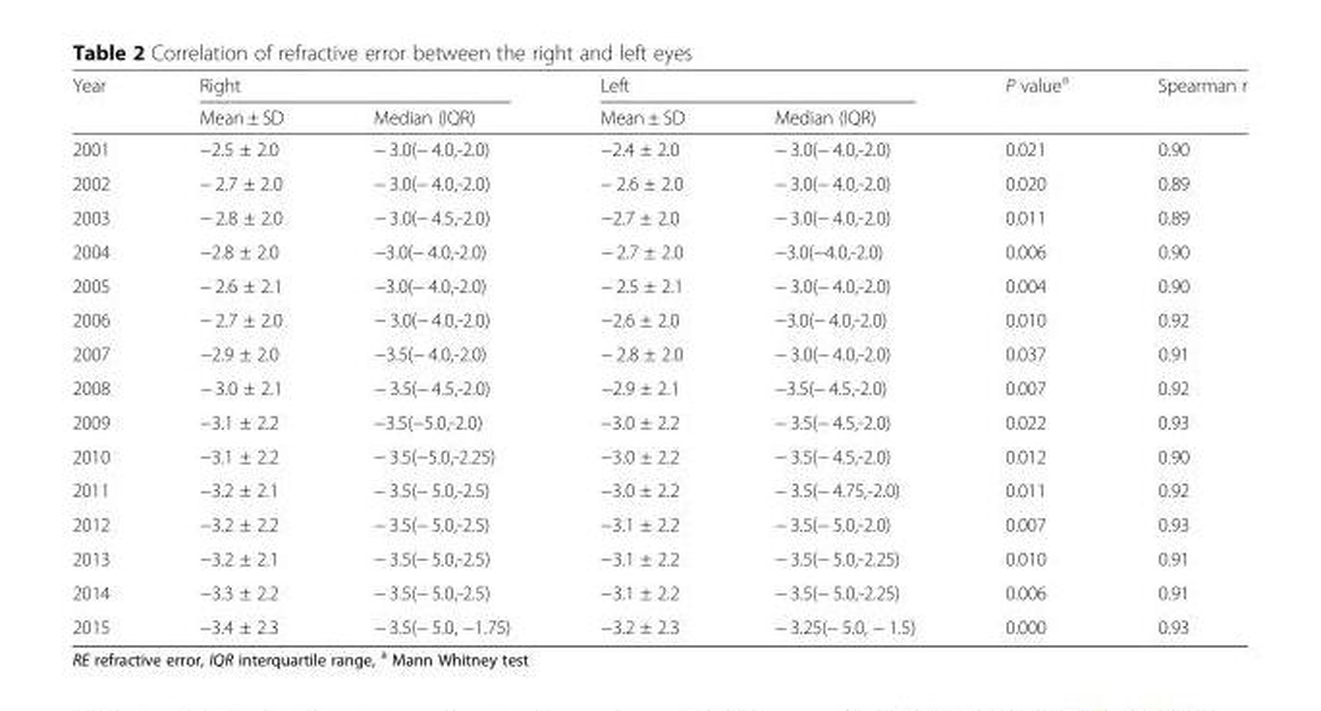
<table><thead><tr><td rowspan="2">Year</td><td colspan="2">Right</td><td colspan="2">Left</td><td rowspan="2">P value<sup>a</sup></td><td rowspan="2">Spearman r</td></tr><tr><td>Mean ± SD</td><td>Median (IQR)</td><td>Mean ± SD</td><td>Median (IQR)</td></tr></thead><tbody><tr><td>2001</td><td>−2.5 ± 2.0</td><td>− 3.0(− 4.0,-2.0)</td><td>−2.4 ± 2.0</td><td>− 3.0(− 4.0,-2.0)</td><td>0.021</td><td>0.90</td></tr><tr><td>2002</td><td>− 2.7 ± 2.0</td><td>− 3.0(− 4.0,-2.0)</td><td>− 2.6 ± 2.0</td><td>− 3.0(− 4.0,-2.0)</td><td>0.020</td><td>0.89</td></tr><tr><td>2003</td><td>− 2.8 ± 2.0</td><td>− 3.0(− 4.5,-2.0)</td><td>−2.7 ± 2.0</td><td>− 3.0(− 4.0,-2.0)</td><td>0.011</td><td>0.89</td></tr><tr><td>2004</td><td>−2.8 ± 2.0</td><td>−3.0(− 4.0,-2.0)</td><td>− 2.7 ± 2.0</td><td>−3.0(−4.0,-2.0)</td><td>0.006</td><td>0.90</td></tr><tr><td>2005</td><td>− 2.6 ± 2.1</td><td>−3.0(− 4.0,-2.0)</td><td>− 2.5 ± 2.1</td><td>− 3.0(− 4.0,-2.0)</td><td>0.004</td><td>0.90</td></tr><tr><td>2006</td><td>− 2.7 ± 2.0</td><td>− 3.0(− 4.0,-2.0)</td><td>−2.6 ± 2.0</td><td>−3.0(− 4.0,-2.0)</td><td>0.010</td><td>0.92</td></tr><tr><td>2007</td><td>−2.9 ± 2.0</td><td>−3.5(− 4.0,-2.0)</td><td>− 2.8 ± 2.0</td><td>− 3.0(− 4.0,-2.0)</td><td>0.037</td><td>0.91</td></tr><tr><td>2008</td><td>− 3.0 ± 2.1</td><td>− 3.5(− 4.5,-2.0)</td><td>−2.9 ± 2.1</td><td>−3.5(− 4.5,-2.0)</td><td>0.007</td><td>0.92</td></tr><tr><td>2009</td><td>−3.1 ± 2.2</td><td>−3.5(−5.0,-2.0)</td><td>−3.0 ± 2.2</td><td>− 3.5(− 4.5,-2.0)</td><td>0.022</td><td>0.93</td></tr><tr><td>2010</td><td>−3.1 ± 2.2</td><td>− 3.5(−5.0,-2.25)</td><td>−3.0 ± 2.2</td><td>− 3.5(− 4.5,-2.0)</td><td>0.012</td><td>0.90</td></tr><tr><td>2011</td><td>−3.2 ± 2.1</td><td>− 3.5(− 5.0,-2.5)</td><td>−3.0 ± 2.2</td><td>− 3.5(− 4.75,-2.0)</td><td>0.011</td><td>0.92</td></tr><tr><td>2012</td><td>−3.2 ± 2.2</td><td>− 3.5(− 5.0,-2.5)</td><td>−3.1 ± 2.2</td><td>− 3.5(− 5.0,-2.0)</td><td>0.007</td><td>0.93</td></tr><tr><td>2013</td><td>−3.2 ± 2.1</td><td>− 3.5(− 5.0,-2.5)</td><td>−3.1 ± 2.2</td><td>− 3.5(− 5.0,-2.25)</td><td>0.010</td><td>0.91</td></tr><tr><td>2014</td><td>−3.3 ± 2.2</td><td>− 3.5(− 5.0,-2.5)</td><td>−3.1 ± 2.2</td><td>− 3.5(− 5.0,-2.25)</td><td>0.006</td><td>0.91</td></tr><tr><td>2015</td><td>−3.4 ± 2.3</td><td>− 3.5(− 5.0, −1.75)</td><td>−3.2 ± 2.3</td><td>− 3.25(− 5.0, − 1.5)</td><td>0.000</td><td>0.93</td></tr></tbody></table>